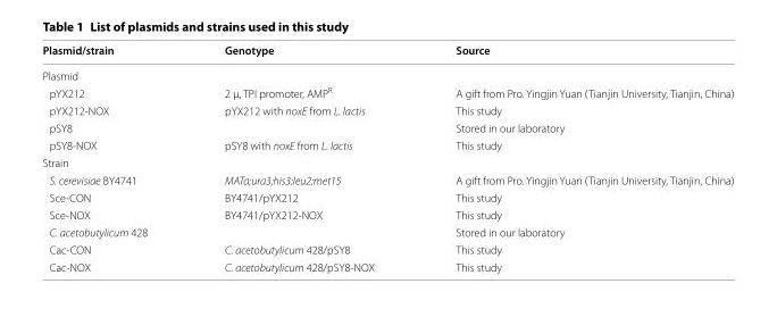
<table><thead><tr><td>Plasmid/strain</td><td>Genotype</td><td>Source</td></tr></thead><tbody><tr><td colspan="3">Plasmid</td></tr><tr><td>pYX212</td><td>2 μ, TPI promoter, AMP<sup>R</sup></td><td>A gift from Pro. Yingjin Yuan (Tianjin University, Tianjin, China)</td></tr><tr><td>pYX212‑NOX</td><td>pYX212 with noxE from L. lactis</td><td>This study</td></tr><tr><td>pSY8</td><td></td><td>Stored in our laboratory</td></tr><tr><td>pSY8‑NOX</td><td>pSY8 with noxE from L. lactis</td><td>This study</td></tr><tr><td colspan="3">Strain</td></tr><tr><td>S. cerevisiae BY4741</td><td>MATa;ura3;his3;leu2;met15</td><td>A gift from Pro. Yingjin Yuan (Tianjin University, Tianjin, China)</td></tr><tr><td>Sce‑CON</td><td>BY4741/pYX212</td><td>This study</td></tr><tr><td>Sce‑NOX</td><td>BY4741/pYX212‑NOX</td><td>This study</td></tr><tr><td>C. acetobutylicum 428</td><td></td><td>Stored in our laboratory</td></tr><tr><td>Cac‑CON</td><td>C. acetobutylicum 428/pSY8</td><td>This study</td></tr><tr><td>Cac‑NOX</td><td>C. acetobutylicum 428/pSY8‑NOX</td><td>This study</td></tr></tbody></table>